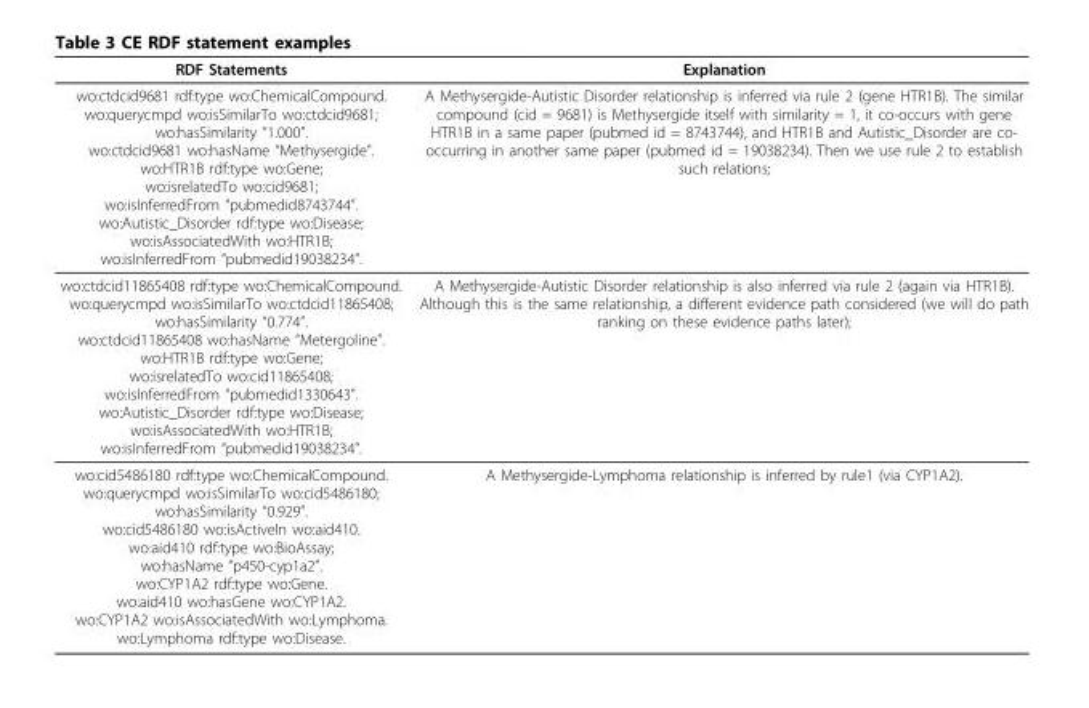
<table><thead><tr><td>RDF Statements</td><td>Explanation</td></tr></thead><tbody><tr><td>wo:ctdcid9681 rdf:type wo:ChemicalCompound. wo:querycmpd wo:isSimilarTo wo:ctdcid9681; wo:hasSimilarity “1.000”. wo:ctdcid9681 wo:hasName “Methysergide”. wo:HTR1B rdf:type wo:Gene; wo:isrelatedTo wo:cid9681; wo:isInferredFrom “pubmedid8743744”. wo:Autistic_Disorder rdf:type wo:Disease; wo:isAssociatedWith wo:HTR1B; wo:isInferredFrom “pubmedid19038234”.</td><td>A Methysergide-Autistic Disorder relationship is inferred via rule 2 (gene HTR1B). The similar compound (cid = 9681) is Methysergide itself with similarity = 1, it co-occurs with gene HTR1B in a same paper (pubmed id = 8743744), and HTR1B and Autistic_Disorder are co- occurring in another same paper (pubmed id = 19038234). Then we use rule 2 to establish such relations;</td></tr><tr><td>wo:ctdcid11865408 rdf:type wo:ChemicalCompound. wo:querycmpd wo:isSimilarTo wo:ctdcid11865408; wo:hasSimilarity “0.774”. wo:ctdcid11865408 wo:hasName “Metergoline”. wo:HTR1B rdf:type wo:Gene; wo:isrelatedTo wo:cid11865408; wo:isInferredFrom “pubmedid1330643”. wo:Autistic_Disorder rdf:type wo:Disease; wo:isAssociatedWith wo:HTR1B; wo:isInferredFrom “pubmedid19038234”.</td><td>A Methysergide-Autistic Disorder relationship is also inferred via rule 2 (again via HTR1B). Although this is the same relationship, a different evidence path considered (we will do path ranking on these evidence paths later);</td></tr><tr><td>wo:cid5486180 rdf:type wo:ChemicalCompound. wo:querycmpd wo:isSimilarTo wo:cid5486180; wo:hasSimilarity “0.929”. wo:cid5486180 wo:isActiveIn wo:aid410. wo:aid410 rdf:type wo:BioAssay; wo:hasName “p450-cyp1a2”. wo:CYP1A2 rdf:type wo:Gene. wo:aid410 wo:hasGene wo:CYP1A2. wo:CYP1A2 wo:isAssociatedWith wo:Lymphoma. wo:Lymphoma rdf:type wo:Disease.</td><td>A Methysergide-Lymphoma relationship is inferred by rule1 (via CYP1A2).</td></tr></tbody></table>